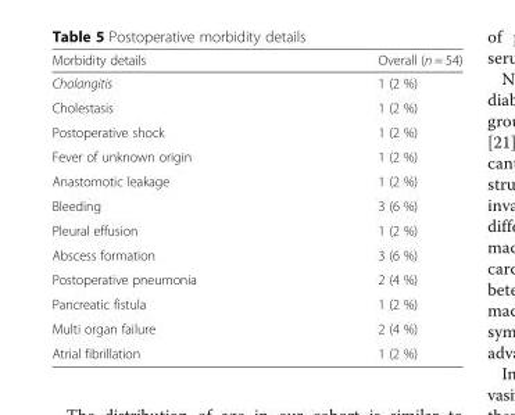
<table><thead><tr><td>Morbidity details</td><td>Overall (n = 54)</td></tr></thead><tbody><tr><td>Cholangitis</td><td>1 (2 %)</td></tr><tr><td>Cholestasis</td><td>1 (2 %)</td></tr><tr><td>Postoperative shock</td><td>1 (2 %)</td></tr><tr><td>Fever of unknown origin</td><td>1 (2 %)</td></tr><tr><td>Anastomotic leakage</td><td>1 (2 %)</td></tr><tr><td>Bleeding</td><td>3 (6 %)</td></tr><tr><td>Pleural effusion</td><td>1 (2 %)</td></tr><tr><td>Abscess formation</td><td>3 (6 %)</td></tr><tr><td>Postoperative pneumonia</td><td>2 (4 %)</td></tr><tr><td>Pancreatic fistula</td><td>1 (2 %)</td></tr><tr><td>Multi organ failure</td><td>2 (4 %)</td></tr><tr><td>Atrial fibrillation</td><td>1 (2 %)</td></tr></tbody></table>